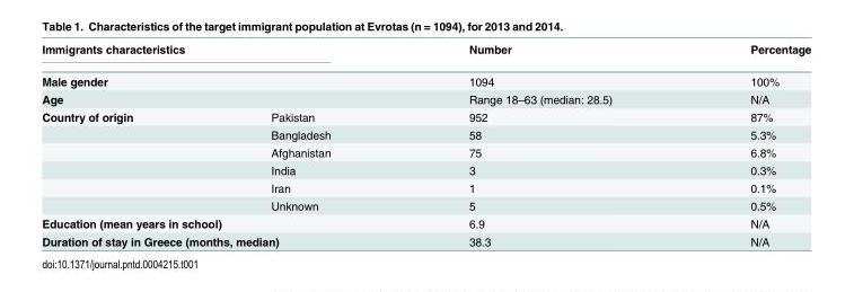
<table><thead><tr><td rowspan="3" colspan="2">Immigrants characteristics Male gender Age</td><td rowspan="4">Number 1094 Range 18–63 (median: 28.5) 952</td><td rowspan="4">Percentage 100% N/A 87%</td></tr><tr></tr><tr></tr><tr><td>Country of origin</td><td>Pakistan</td></tr></thead><tbody><tr><td></td><td>Bangladesh</td><td>58</td><td>5.3%</td></tr><tr><td></td><td>Afghanistan</td><td>75</td><td>6.8%</td></tr><tr><td></td><td>India</td><td>3</td><td>0.3%</td></tr><tr><td></td><td>Iran</td><td>1</td><td>0.1%</td></tr><tr><td></td><td>Unknown</td><td>5</td><td>0.5%</td></tr><tr><td colspan="2">Education (mean years in school)</td><td>6.9</td><td>N/A</td></tr><tr><td colspan="2">Duration of stay in Greece (months, median)</td><td>38.3</td><td>N/A</td></tr></tbody></table>